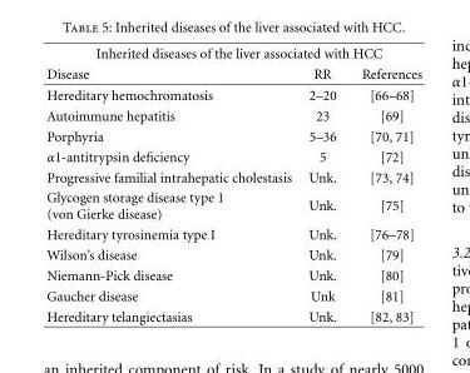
<table><thead><tr><td colspan="3">Inherited diseases of the liver associated with HCC</td></tr><tr><td>Disease</td><td>RR</td><td>References</td></tr></thead><tbody><tr><td>Hereditary hemochromatosis</td><td>2–20</td><td>[66–68]</td></tr><tr><td>Autoimmune hepatitis</td><td>23</td><td>[69]</td></tr><tr><td>Porphyria</td><td>5–36</td><td>[70, 71]</td></tr><tr><td>α1-antitrypsin deficiency</td><td>5</td><td>[72]</td></tr><tr><td>Progressive familial intrahepatic cholestasis</td><td>Unk.</td><td>[73, 74]</td></tr><tr><td>Glycogen storage disease type 1 (von Gierke disease)</td><td>Unk.</td><td>[75]</td></tr><tr><td>Hereditary tyrosinemia type I</td><td>Unk.</td><td>[76–78]</td></tr><tr><td>Wilson’s disease</td><td>Unk.</td><td>[79]</td></tr><tr><td>Niemann-Pick disease</td><td>Unk.</td><td>[80]</td></tr><tr><td>Gaucher disease</td><td>Unk</td><td>[81]</td></tr><tr><td>Hereditary telangiectasias</td><td>Unk.</td><td>[82, 83]</td></tr></tbody></table>